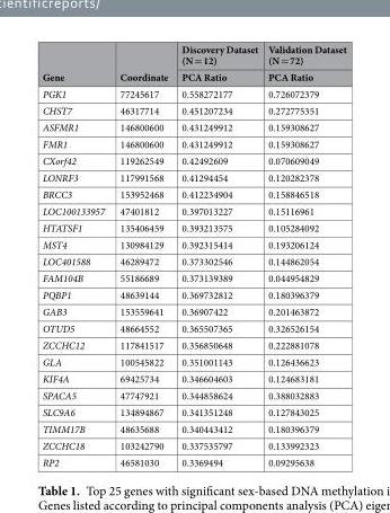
<table><thead><tr><td rowspan="2">Gene</td><td rowspan="2">Coordinate</td><td rowspan="2">Discovery Dataset (N = 12) PCA Ratio</td><td rowspan="2">Validation Dataset (N = 72) PCA Ratio</td></tr><tr></tr></thead><tbody><tr><td>PGK1</td><td>77245617</td><td>0.558272177</td><td>0.726072379</td></tr><tr><td>CHST7</td><td>46317714</td><td>0.451207234</td><td>0.272775351</td></tr><tr><td>ASFMR1</td><td>146800600</td><td>0.431249912</td><td>0.159308627</td></tr><tr><td>FMR1</td><td>146800600</td><td>0.431249912</td><td>0.159308627</td></tr><tr><td>CXorf42</td><td>119262549</td><td>0.42492609</td><td>0.070609049</td></tr><tr><td>LONRF3</td><td>117991568</td><td>0.41294454</td><td>0.120282378</td></tr><tr><td>BRCC3</td><td>153952468</td><td>0.412234904</td><td>0.158846518</td></tr><tr><td>LOC100133957</td><td>47401812</td><td>0.397013227</td><td>0.15116961</td></tr><tr><td>HTATSF1</td><td>135406459</td><td>0.393213575</td><td>0.105284092</td></tr><tr><td>MST4</td><td>130984129</td><td>0.392315414</td><td>0.193206124</td></tr><tr><td>LOC401588</td><td>46289472</td><td>0.373302546</td><td>0.144862054</td></tr><tr><td>FAM104B</td><td>55186689</td><td>0.373139389</td><td>0.044954829</td></tr><tr><td>PQBP1</td><td>48639144</td><td>0.369732812</td><td>0.180396379</td></tr><tr><td>GAB3</td><td>153559641</td><td>0.36907422</td><td>0.201463872</td></tr><tr><td>OTUD5</td><td>48664552</td><td>0.365507365</td><td>0.326526154</td></tr><tr><td>ZCCHC12</td><td>117841517</td><td>0.356850648</td><td>0.222881078</td></tr><tr><td>GLA</td><td>100545822</td><td>0.351001143</td><td>0.126436623</td></tr><tr><td>KIF4A</td><td>69425734</td><td>0.346604603</td><td>0.124683181</td></tr><tr><td>SPACA5</td><td>47747921</td><td>0.344858624</td><td>0.388032883</td></tr><tr><td>SLC9A6</td><td>134894867</td><td>0.341351248</td><td>0.127843025</td></tr><tr><td>TIMM17B</td><td>48635688</td><td>0.340443412</td><td>0.180396379</td></tr><tr><td>ZCCHC18</td><td>103242790</td><td>0.337535797</td><td>0.133992323</td></tr><tr><td>RP2</td><td>46581030</td><td>0.3369494</td><td>0.09295638</td></tr></tbody></table>